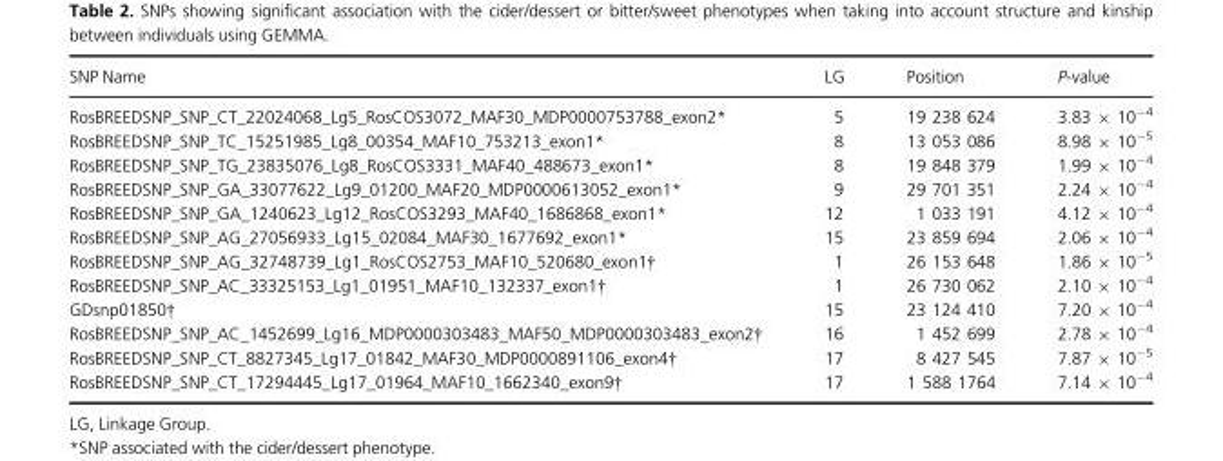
<table><thead><tr><td>SNP Name</td><td>LG</td><td>Position</td><td>P-value</td></tr></thead><tbody><tr><td>RosBREEDSNP_SNP_CT_22024068_Lg5_RosCOS3072_MAF30_MDP0000753788_exon2*</td><td>5</td><td>19 238 624</td><td>3.83 × 10<sup>−4</sup></td></tr><tr><td>RosBREEDSNP_SNP_TC_15251985_Lg8_00354_MAF10_753213_exon1*</td><td>8</td><td>13 053 086</td><td>8.98 × 10<sup>−5</sup></td></tr><tr><td>RosBREEDSNP_SNP_TG_23835076_Lg8_RosCOS3331_MAF40_488673_exon1*</td><td>8</td><td>19 848 379</td><td>1.99 × 10<sup>−4</sup></td></tr><tr><td>RosBREEDSNP_SNP_GA_33077622_Lg9_01200_MAF20_MDP0000613052_exon1*</td><td>9</td><td>29 701 351</td><td>2.24 × 10<sup>−4</sup></td></tr><tr><td>RosBREEDSNP_SNP_GA_1240623_Lg12_RosCOS3293_MAF40_1686868_exon1*</td><td>12</td><td>1 033 191</td><td>4.12 × 10<sup>−4</sup></td></tr><tr><td>RosBREEDSNP_SNP_AG_27056933_Lg15_02084_MAF30_1677692_exon1*</td><td>15</td><td>23 859 694</td><td>2.06 × 10<sup>−4</sup></td></tr><tr><td>RosBREEDSNP_SNP_AG_32748739_Lg1_RosCOS2753_MAF10_520680_exon1†</td><td>1</td><td>26 153 648</td><td>1.86 × 10<sup>−5</sup></td></tr><tr><td>RosBREEDSNP_SNP_AC_33325153_Lg1_01951_MAF10_132337_exon1†</td><td>1</td><td>26 730 062</td><td>2.10 × 10<sup>−4</sup></td></tr><tr><td>GDsnp01850†</td><td>15</td><td>23 124 410</td><td>7.20 × 10<sup>−4</sup></td></tr><tr><td>RosBREEDSNP_SNP_AC_1452699_Lg16_MDP0000303483_MAF50_MDP0000303483_exon2†</td><td>16</td><td>1 452 699</td><td>2.78 × 10<sup>−4</sup></td></tr><tr><td>RosBREEDSNP_SNP_CT_8827345_Lg17_01842_MAF30_MDP0000891106_exon4†</td><td>17</td><td>8 427 545</td><td>7.87 × 10<sup>−5</sup></td></tr><tr><td>RosBREEDSNP_SNP_CT_17294445_Lg17_01964_MAF10_1662340_exon9†</td><td>17</td><td>1 588 1764</td><td>7.14 × 10<sup>−4</sup></td></tr></tbody></table>